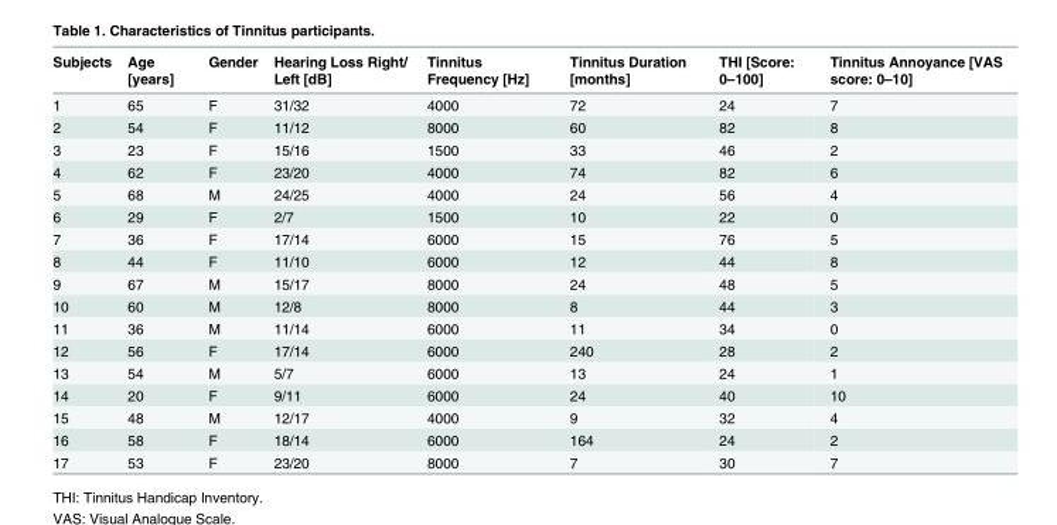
<table><thead><tr><td>Subjects</td><td>Age [years]</td><td>Gender</td><td>Hearing Loss Right/ Left [dB]</td><td>Tinnitus Frequency [Hz]</td><td>Tinnitus Duration [months]</td><td>THI [Score: 0–100]</td><td>Tinnitus Annoyance [VAS score: 0–10]</td></tr></thead><tbody><tr><td>1</td><td>65</td><td>F</td><td>31/32</td><td>4000</td><td>72</td><td>24</td><td>7</td></tr><tr><td>2</td><td>54</td><td>F</td><td>11/12</td><td>8000</td><td>60</td><td>82</td><td>8</td></tr><tr><td>3</td><td>23</td><td>F</td><td>15/16</td><td>1500</td><td>33</td><td>46</td><td>2</td></tr><tr><td>4</td><td>62</td><td>F</td><td>23/20</td><td>4000</td><td>74</td><td>82</td><td>6</td></tr><tr><td>5</td><td>68</td><td>M</td><td>24/25</td><td>4000</td><td>24</td><td>56</td><td>4</td></tr><tr><td>6</td><td>29</td><td>F</td><td>2/7</td><td>1500</td><td>10</td><td>22</td><td>0</td></tr><tr><td>7</td><td>36</td><td>F</td><td>17/14</td><td>6000</td><td>15</td><td>76</td><td>5</td></tr><tr><td>8</td><td>44</td><td>F</td><td>11/10</td><td>6000</td><td>12</td><td>44</td><td>8</td></tr><tr><td>9</td><td>67</td><td>M</td><td>15/17</td><td>8000</td><td>24</td><td>48</td><td>5</td></tr><tr><td>10</td><td>60</td><td>M</td><td>12/8</td><td>8000</td><td>8</td><td>44</td><td>3</td></tr><tr><td>11</td><td>36</td><td>M</td><td>11/14</td><td>6000</td><td>11</td><td>34</td><td>0</td></tr><tr><td>12</td><td>56</td><td>F</td><td>17/14</td><td>6000</td><td>240</td><td>28</td><td>2</td></tr><tr><td>13</td><td>54</td><td>M</td><td>5/7</td><td>6000</td><td>13</td><td>24</td><td>1</td></tr><tr><td>14</td><td>20</td><td>F</td><td>9/11</td><td>6000</td><td>24</td><td>40</td><td>10</td></tr><tr><td>15</td><td>48</td><td>M</td><td>12/17</td><td>4000</td><td>9</td><td>32</td><td>4</td></tr><tr><td>16</td><td>58</td><td>F</td><td>18/14</td><td>6000</td><td>164</td><td>24</td><td>2</td></tr><tr><td>17</td><td>53</td><td>F</td><td>23/20</td><td>8000</td><td>7</td><td>30</td><td>7</td></tr></tbody></table>